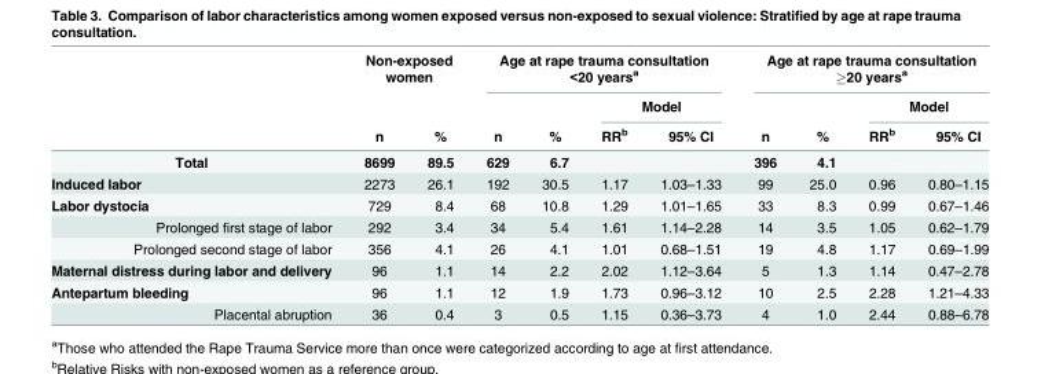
<table><thead><tr><td rowspan="3"></td><td colspan="2">Non-exposed women</td><td colspan="4">Age at rape trauma consultation &lt;20 years<sup>a</sup></td><td colspan="4">Age at rape trauma consultation ≥20 years<sup>a</sup></td></tr><tr><td rowspan="2">n</td><td rowspan="2">%</td><td rowspan="2">n</td><td rowspan="2">%</td><td colspan="2">Model</td><td rowspan="2">n</td><td rowspan="2">%</td><td colspan="2">Model</td></tr><tr><td>RR<sup>b</sup></td><td>95% CI</td><td>RR<sup>b</sup></td><td>95% CI</td></tr></thead><tbody><tr><td>Total</td><td>8699</td><td>89.5</td><td>629</td><td>6.7</td><td></td><td></td><td>396</td><td>4.1</td><td></td><td></td></tr><tr><td>Induced labor</td><td>2273</td><td>26.1</td><td>192</td><td>30.5</td><td>1.17</td><td>1.03–1.33</td><td>99</td><td>25.0</td><td>0.96</td><td>0.80–1.15</td></tr><tr><td>Labor dystocia</td><td>729</td><td>8.4</td><td>68</td><td>10.8</td><td>1.29</td><td>1.01–1.65</td><td>33</td><td>8.3</td><td>0.99</td><td>0.67–1.46</td></tr><tr><td>Prolonged first stage of labor</td><td>292</td><td>3.4</td><td>34</td><td>5.4</td><td>1.61</td><td>1.14–2.28</td><td>14</td><td>3.5</td><td>1.05</td><td>0.62–1.79</td></tr><tr><td>Prolonged second stage of labor</td><td>356</td><td>4.1</td><td>26</td><td>4.1</td><td>1.01</td><td>0.68–1.51</td><td>19</td><td>4.8</td><td>1.17</td><td>0.69–1.99</td></tr><tr><td>Maternal distress during labor and delivery</td><td>96</td><td>1.1</td><td>14</td><td>2.2</td><td>2.02</td><td>1.12–3.64</td><td>5</td><td>1.3</td><td>1.14</td><td>0.47–2.78</td></tr><tr><td>Antepartum bleeding</td><td>96</td><td>1.1</td><td>12</td><td>1.9</td><td>1.73</td><td>0.96–3.12</td><td>10</td><td>2.5</td><td>2.28</td><td>1.21–4.33</td></tr><tr><td>Placental abruption</td><td>36</td><td>0.4</td><td>3</td><td>0.5</td><td>1.15</td><td>0.36–3.73</td><td>4</td><td>1.0</td><td>2.44</td><td>0.88–6.78</td></tr></tbody></table>